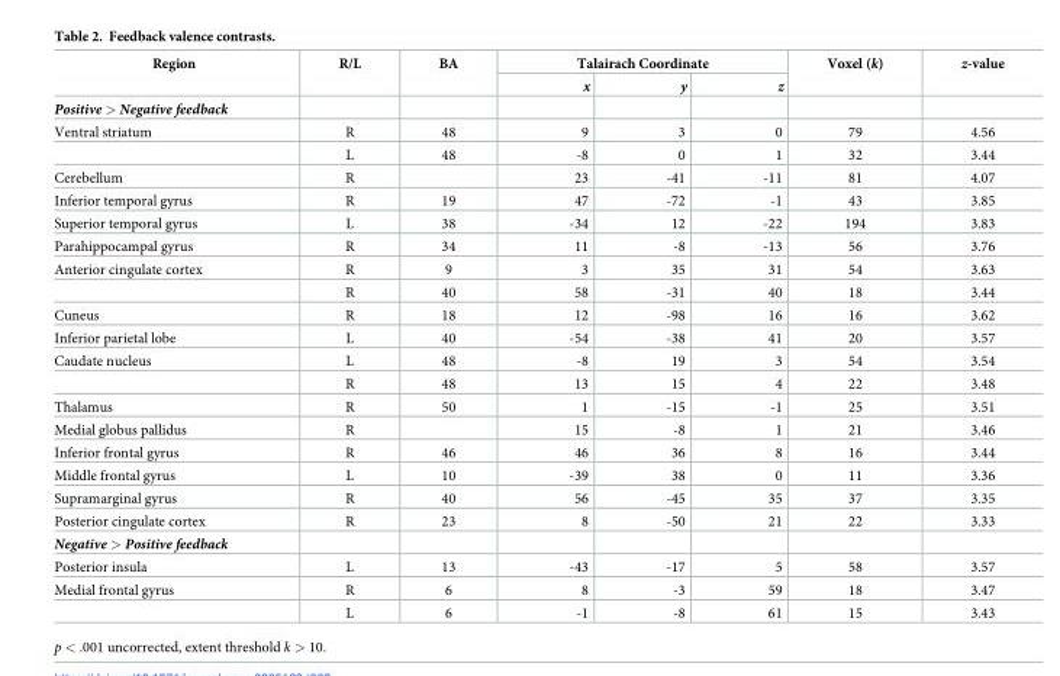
<table><thead><tr><td rowspan="2">Region</td><td rowspan="2">R/L</td><td rowspan="2">BA</td><td colspan="3">Talairach Coordinate</td><td rowspan="2">Voxel (k)</td><td rowspan="2">z-value</td></tr><tr><td>x</td><td>y</td><td>z</td></tr></thead><tbody><tr><td colspan="8">Positive &gt; Negative feedback</td></tr><tr><td rowspan="2">Ventral striatum</td><td>R</td><td>48</td><td>9</td><td>3</td><td>0</td><td>79</td><td>4.56</td></tr><tr><td>L</td><td>48</td><td>-8</td><td>0</td><td>1</td><td>32</td><td>3.44</td></tr><tr><td>Cerebellum</td><td>R</td><td></td><td>23</td><td>-41</td><td>-11</td><td>81</td><td>4.07</td></tr><tr><td>Inferior temporal gyrus</td><td>R</td><td>19</td><td>47</td><td>-72</td><td>-1</td><td>43</td><td>3.85</td></tr><tr><td>Superior temporal gyrus</td><td>L</td><td>38</td><td>-34</td><td>12</td><td>-22</td><td>194</td><td>3.83</td></tr><tr><td>Parahippocampal gyrus</td><td>R</td><td>34</td><td>11</td><td>-8</td><td>-13</td><td>56</td><td>3.76</td></tr><tr><td rowspan="2">Anterior cingulate cortex</td><td>R</td><td>9</td><td>3</td><td>35</td><td>31</td><td>54</td><td>3.63</td></tr><tr><td>R</td><td>40</td><td>58</td><td>-31</td><td>40</td><td>18</td><td>3.44</td></tr><tr><td>Cuneus</td><td>R</td><td>18</td><td>12</td><td>-98</td><td>16</td><td>16</td><td>3.62</td></tr><tr><td>Inferior parietal lobe</td><td>L</td><td>40</td><td>-54</td><td>-38</td><td>41</td><td>20</td><td>3.57</td></tr><tr><td rowspan="2">Caudate nucleus</td><td>L</td><td>48</td><td>-8</td><td>19</td><td>3</td><td>54</td><td>3.54</td></tr><tr><td>R</td><td>48</td><td>13</td><td>15</td><td>4</td><td>22</td><td>3.48</td></tr><tr><td>Thalamus</td><td>R</td><td>50</td><td>1</td><td>-15</td><td>-1</td><td>25</td><td>3.51</td></tr><tr><td>Medial globus pallidus</td><td>R</td><td></td><td>15</td><td>-8</td><td>1</td><td>21</td><td>3.46</td></tr><tr><td>Inferior frontal gyrus</td><td>R</td><td>46</td><td>46</td><td>36</td><td>8</td><td>16</td><td>3.44</td></tr><tr><td>Middle frontal gyrus</td><td>L</td><td>10</td><td>-39</td><td>38</td><td>0</td><td>11</td><td>3.36</td></tr><tr><td>Supramarginal gyrus</td><td>R</td><td>40</td><td>56</td><td>-45</td><td>35</td><td>37</td><td>3.35</td></tr><tr><td>Posterior cingulate cortex</td><td>R</td><td>23</td><td>8</td><td>-50</td><td>21</td><td>22</td><td>3.33</td></tr><tr><td colspan="8">Negative &gt; Positive feedback</td></tr><tr><td>Posterior insula</td><td>L</td><td>13</td><td>-43</td><td>-17</td><td>5</td><td>58</td><td>3.57</td></tr><tr><td rowspan="2">Medial frontal gyrus</td><td>R</td><td>6</td><td>8</td><td>-3</td><td>59</td><td>18</td><td>3.47</td></tr><tr><td>L</td><td>6</td><td>-1</td><td>-8</td><td>61</td><td>15</td><td>3.43</td></tr></tbody></table>